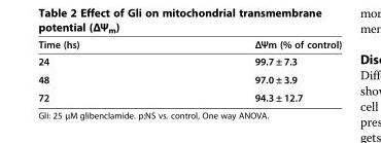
<table><thead><tr><td>Time (hs)</td><td>ΔΨm (% of control)</td></tr></thead><tbody><tr><td>24</td><td>99.7 ± 7.3</td></tr><tr><td>48</td><td>97.0 ± 3.9</td></tr><tr><td>72</td><td>94.3 ± 12.7</td></tr></tbody></table>